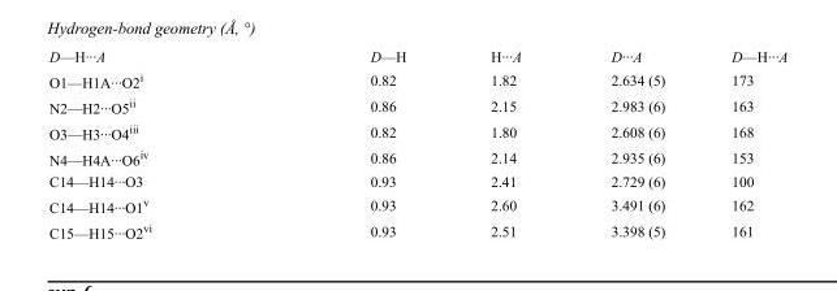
<table><tbody><tr><td>D—H···A</td><td>D—H</td><td>H···A</td><td>D···A</td><td>D—H···A</td></tr><tr><td>O1—H1A···O2<sup>i</sup></td><td>0.82</td><td>1.82</td><td>2.634 (5)</td><td>173</td></tr><tr><td>N2—H2···O5<sup>ii</sup></td><td>0.86</td><td>2.15</td><td>2.983 (6)</td><td>163</td></tr><tr><td>O3—H3···O4<sup>iii</sup></td><td>0.82</td><td>1.80</td><td>2.608 (6)</td><td>168</td></tr><tr><td>N4—H4A···O6<sup>iv</sup></td><td>0.86</td><td>2.14</td><td>2.935 (6)</td><td>153</td></tr><tr><td>C14—H14···O3</td><td>0.93</td><td>2.41</td><td>2.729 (6)</td><td>100</td></tr><tr><td>C14—H14···O1<sup>v</sup></td><td>0.93</td><td>2.60</td><td>3.491 (6)</td><td>162</td></tr><tr><td>C15—H15···O2<sup>vi</sup></td><td>0.93</td><td>2.51</td><td>3.398 (5)</td><td>161</td></tr></tbody></table>